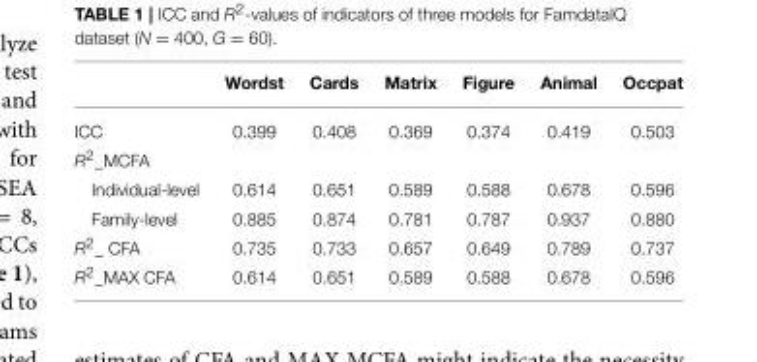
<table><thead><tr><td></td><td>Wordst</td><td>Cards</td><td>Matrix</td><td>Figure</td><td>Animal</td><td>Occpat</td></tr></thead><tbody><tr><td>ICC</td><td>0.399</td><td>0.408</td><td>0.369</td><td>0.374</td><td>0.419</td><td>0.503</td></tr><tr><td colspan="7">R<sup>2</sup>_MCFA</td></tr><tr><td>Individual-level</td><td>0.614</td><td>0.651</td><td>0.589</td><td>0.588</td><td>0.678</td><td>0.596</td></tr><tr><td>Family-level</td><td>0.885</td><td>0.874</td><td>0.781</td><td>0.787</td><td>0.937</td><td>0.880</td></tr><tr><td>R<sup>2</sup>_ CFA</td><td>0.735</td><td>0.733</td><td>0.657</td><td>0.649</td><td>0.789</td><td>0.737</td></tr><tr><td>R<sup>2</sup>_MAX CFA</td><td>0.614</td><td>0.651</td><td>0.589</td><td>0.588</td><td>0.678</td><td>0.596</td></tr></tbody></table>